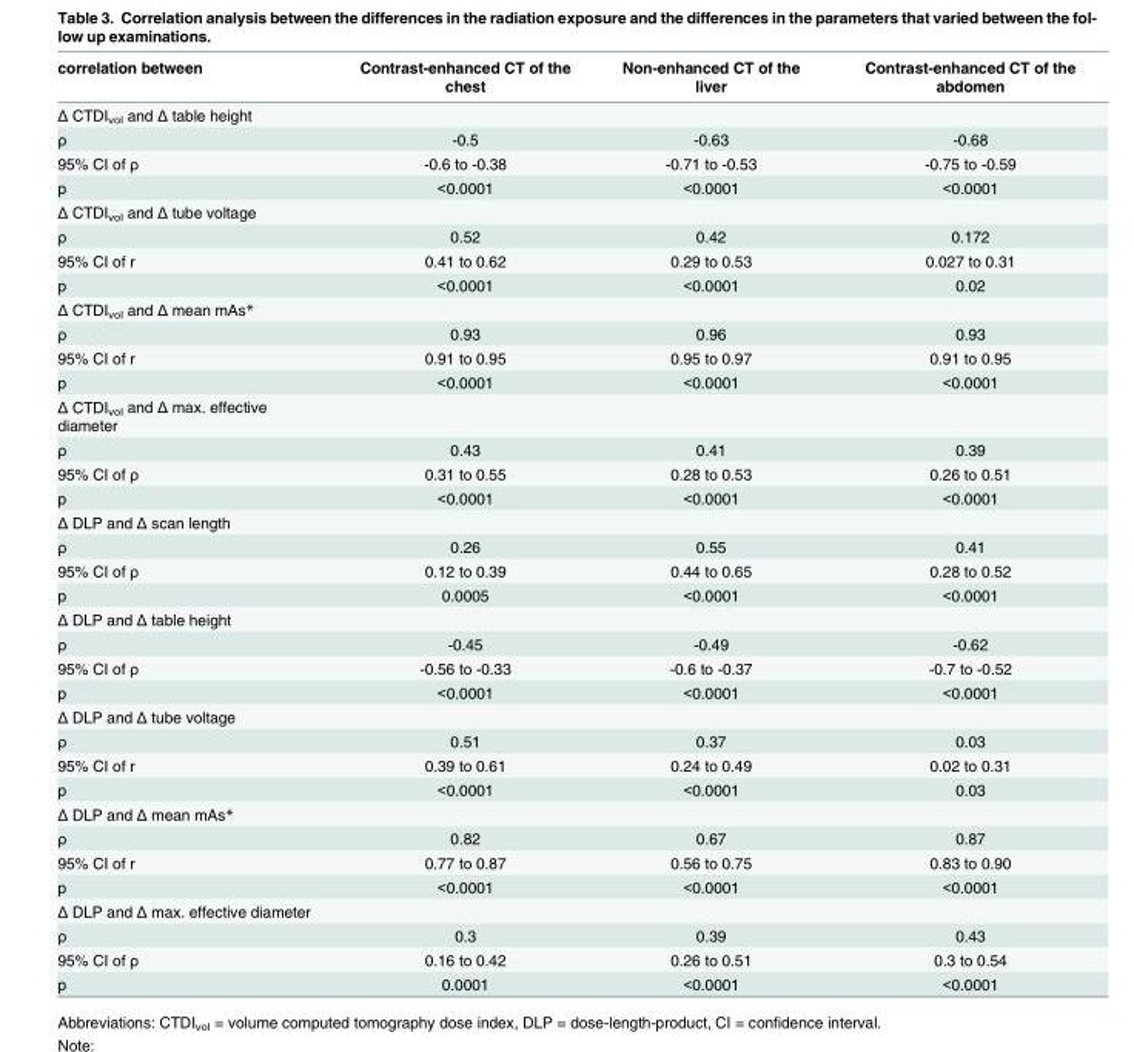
<table><thead><tr><td>correlation between</td><td>Contrast-enhanced CT of the chest</td><td>Non-enhanced CT of the liver</td><td>Contrast-enhanced CT of the abdomen</td></tr></thead><tbody><tr><td colspan="4">Δ CTDI<sub>vol</sub> and Δ table height</td></tr><tr><td>ρ</td><td>-0.5</td><td>-0.63</td><td>-0.68</td></tr><tr><td>95% CI of ρ</td><td>-0.6 to -0.38</td><td>-0.71 to -0.53</td><td>-0.75 to -0.59</td></tr><tr><td>p</td><td>&lt;0.0001</td><td>&lt;0.0001</td><td>&lt;0.0001</td></tr><tr><td colspan="4">Δ CTDI<sub>vol</sub> and Δ tube voltage</td></tr><tr><td>ρ</td><td>0.52</td><td>0.42</td><td>0.172</td></tr><tr><td>95% CI of r</td><td>0.41 to 0.62</td><td>0.29 to 0.53</td><td>0.027 to 0.31</td></tr><tr><td>p</td><td>&lt;0.0001</td><td>&lt;0.0001</td><td>0.02</td></tr><tr><td colspan="4">Δ CTDI<sub>vol</sub> and Δ mean mAs*</td></tr><tr><td>ρ</td><td>0.93</td><td>0.96</td><td>0.93</td></tr><tr><td>95% CI of r</td><td>0.91 to 0.95</td><td>0.95 to 0.97</td><td>0.91 to 0.95</td></tr><tr><td>p</td><td>&lt;0.0001</td><td>&lt;0.0001</td><td>&lt;0.0001</td></tr><tr><td colspan="4">Δ CTDI<sub>vol</sub> and Δ max. effective diameter</td></tr><tr><td>ρ</td><td>0.43</td><td>0.41</td><td>0.39</td></tr><tr><td>95% CI of ρ</td><td>0.31 to 0.55</td><td>0.28 to 0.53</td><td>0.26 to 0.51</td></tr><tr><td>p</td><td>&lt;0.0001</td><td>&lt;0.0001</td><td>&lt;0.0001</td></tr><tr><td colspan="4">Δ DLP and Δ scan length</td></tr><tr><td>ρ</td><td>0.26</td><td>0.55</td><td>0.41</td></tr><tr><td>95% CI of ρ</td><td>0.12 to 0.39</td><td>0.44 to 0.65</td><td>0.28 to 0.52</td></tr><tr><td>p</td><td>0.0005</td><td>&lt;0.0001</td><td>&lt;0.0001</td></tr><tr><td colspan="4">Δ DLP and Δ table height</td></tr><tr><td>ρ</td><td>-0.45</td><td>-0.49</td><td>-0.62</td></tr><tr><td>95% CI of ρ</td><td>-0.56 to -0.33</td><td>-0.6 to -0.37</td><td>-0.7 to -0.52</td></tr><tr><td>p</td><td>&lt;0.0001</td><td>&lt;0.0001</td><td>&lt;0.0001</td></tr><tr><td colspan="4">Δ DLP and Δ tube voltage</td></tr><tr><td>ρ</td><td>0.51</td><td>0.37</td><td>0.03</td></tr><tr><td>95% CI of r</td><td>0.39 to 0.61</td><td>0.24 to 0.49</td><td>0.02 to 0.31</td></tr><tr><td>p</td><td>&lt;0.0001</td><td>&lt;0.0001</td><td>0.03</td></tr><tr><td colspan="4">Δ DLP and Δ mean mAs*</td></tr><tr><td>ρ</td><td>0.82</td><td>0.67</td><td>0.87</td></tr><tr><td>95% CI of r</td><td>0.77 to 0.87</td><td>0.56 to 0.75</td><td>0.83 to 0.90</td></tr><tr><td>p</td><td>&lt;0.0001</td><td>&lt;0.0001</td><td>&lt;0.0001</td></tr><tr><td colspan="4">Δ DLP and Δ max. effective diameter</td></tr><tr><td>ρ</td><td>0.3</td><td>0.39</td><td>0.43</td></tr><tr><td>95% CI of ρ</td><td>0.16 to 0.42</td><td>0.26 to 0.51</td><td>0.3 to 0.54</td></tr><tr><td>p</td><td>0.0001</td><td>&lt;0.0001</td><td>&lt;0.0001</td></tr></tbody></table>